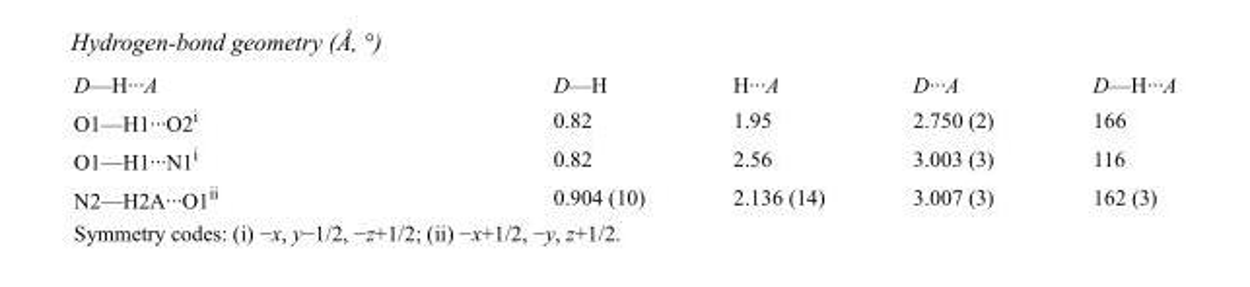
<table><tbody><tr><td>D—H···A</td><td>D—H</td><td>H···A</td><td>D···A</td><td>D—H···A</td></tr><tr><td>O1—H1···O2<sup>i</sup></td><td>0.82</td><td>1.95</td><td>2.750 (2)</td><td>166</td></tr><tr><td>O1—H1···N1<sup>i</sup></td><td>0.82</td><td>2.56</td><td>3.003 (3)</td><td>116</td></tr><tr><td>N2—H2A···O1<sup>ii</sup></td><td>0.904 (10)</td><td>2.136 (14)</td><td>3.007 (3)</td><td>162 (3)</td></tr></tbody></table>